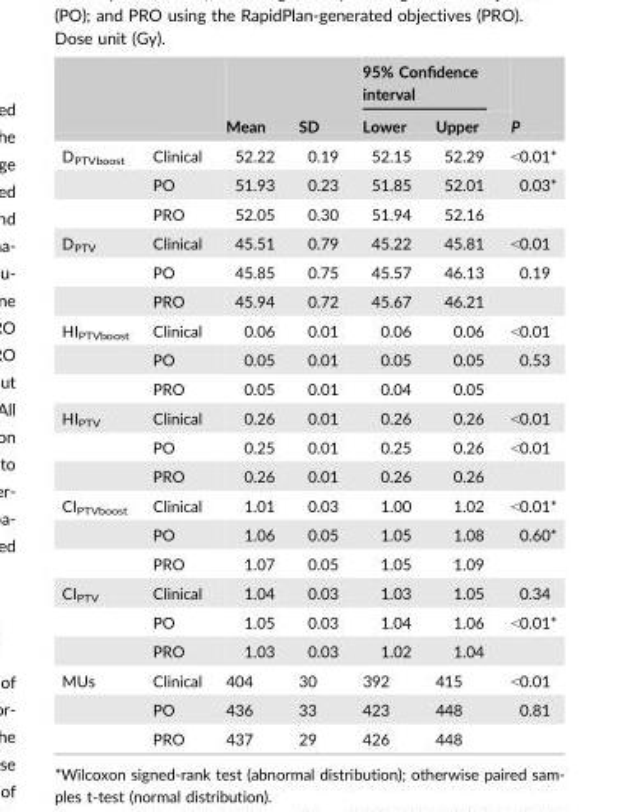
<table><thead><tr><td rowspan="2"></td><td rowspan="2"></td><td rowspan="2">Mean</td><td rowspan="2">SD</td><td colspan="2">95% Confidence interval</td><td rowspan="2">P</td></tr><tr><td>Lower</td><td>Upper</td></tr></thead><tbody><tr><td rowspan="3">D<sub>PTVboost</sub></td><td>Clinical</td><td>52.22</td><td>0.19</td><td>52.15</td><td>52.29</td><td>&lt;0.01*</td></tr><tr><td>PO</td><td>51.93</td><td>0.23</td><td>51.85</td><td>52.01</td><td>0.03*</td></tr><tr><td>PRO</td><td>52.05</td><td>0.30</td><td>51.94</td><td>52.16</td><td></td></tr><tr><td rowspan="3">D<sub>PTV</sub></td><td>Clinical</td><td>45.51</td><td>0.79</td><td>45.22</td><td>45.81</td><td>&lt;0.01</td></tr><tr><td>PO</td><td>45.85</td><td>0.75</td><td>45.57</td><td>46.13</td><td>0.19</td></tr><tr><td>PRO</td><td>45.94</td><td>0.72</td><td>45.67</td><td>46.21</td><td></td></tr><tr><td rowspan="3">HI<sub>PTVboost</sub></td><td>Clinical</td><td>0.06</td><td>0.01</td><td>0.06</td><td>0.06</td><td>&lt;0.01</td></tr><tr><td>PO</td><td>0.05</td><td>0.01</td><td>0.05</td><td>0.05</td><td>0.53</td></tr><tr><td>PRO</td><td>0.05</td><td>0.01</td><td>0.04</td><td>0.05</td><td></td></tr><tr><td rowspan="3">HI<sub>PTV</sub></td><td>Clinical</td><td>0.26</td><td>0.01</td><td>0.26</td><td>0.26</td><td>&lt;0.01</td></tr><tr><td>PO</td><td>0.25</td><td>0.01</td><td>0.25</td><td>0.26</td><td>&lt;0.01</td></tr><tr><td>PRO</td><td>0.26</td><td>0.01</td><td>0.26</td><td>0.26</td><td></td></tr><tr><td rowspan="3">CI<sub>PTVboost</sub></td><td>Clinical</td><td>1.01</td><td>0.03</td><td>1.00</td><td>1.02</td><td>&lt;0.01*</td></tr><tr><td>PO</td><td>1.06</td><td>0.05</td><td>1.05</td><td>1.08</td><td>0.60*</td></tr><tr><td>PRO</td><td>1.07</td><td>0.05</td><td>1.05</td><td>1.09</td><td></td></tr><tr><td rowspan="3">CI<sub>PTV</sub></td><td>Clinical</td><td>1.04</td><td>0.03</td><td>1.03</td><td>1.05</td><td>0.34</td></tr><tr><td>PO</td><td>1.05</td><td>0.03</td><td>1.04</td><td>1.06</td><td>&lt;0.01*</td></tr><tr><td>PRO</td><td>1.03</td><td>0.03</td><td>1.02</td><td>1.04</td><td></td></tr><tr><td rowspan="3">MUs</td><td>Clinical</td><td>404</td><td>30</td><td>392</td><td>415</td><td>&lt;0.01</td></tr><tr><td>PO</td><td>436</td><td>33</td><td>423</td><td>448</td><td>0.81</td></tr><tr><td>PRO</td><td>437</td><td>29</td><td>426</td><td>448</td><td></td></tr></tbody></table>